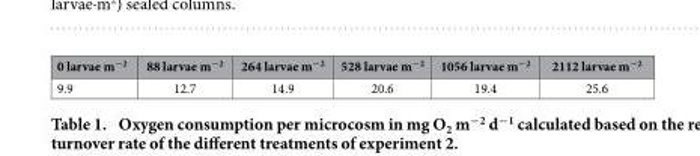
<table><thead><tr><td>0 larvae m<sup>−2</sup></td><td>88 larvae m<sup>−2</sup></td><td>264 larvae m<sup>−2</sup></td><td>528 larvae m<sup>−2</sup></td><td>1056 larvae m<sup>−2</sup></td><td>2112 larvae m<sup>−2</sup></td></tr></thead><tbody><tr><td>9.9</td><td>12.7</td><td>14.9</td><td>20.6</td><td>19.4</td><td>25.6</td></tr></tbody></table>